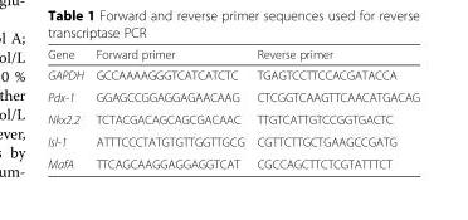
<table><thead><tr><td>Gene</td><td>Forward primer</td><td>Reverse primer</td></tr></thead><tbody><tr><td>GAPDH</td><td>GCCAAAAGGGTCATCATCTC</td><td>TGAGTCCTTCCACGATACCA</td></tr><tr><td>Pdx-1</td><td>GGAGCCGGAGGAGAACAAG</td><td>CTCGGTCAAGTTCAACATGACAG</td></tr><tr><td>Nkx2.2</td><td>TCTACGACAGCAGCGACAAC</td><td>TTGTCATTGTCCGGTGACTC</td></tr><tr><td>Isl-1</td><td>ATTTCCCTATGTGTTGGTTGCG</td><td>CGTTCTTGCTGAAGCCGATG</td></tr><tr><td>MafA</td><td>TTCAGCAAGGAGGAGGTCAT</td><td>CGCCAGCTTCTCGTATTTCT</td></tr></tbody></table>